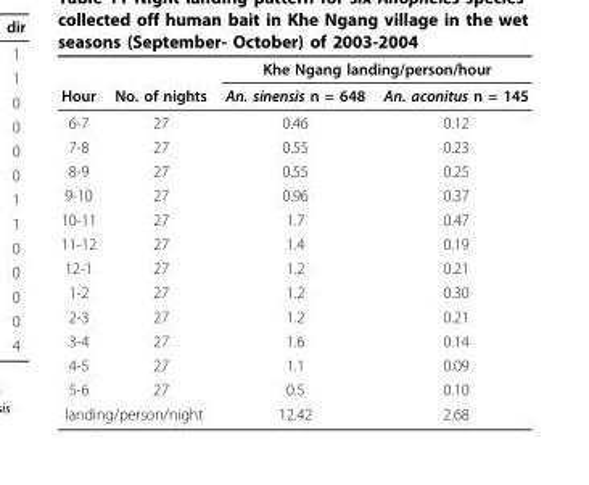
<table><thead><tr><td rowspan="2">Hour</td><td rowspan="2">No. of nights</td><td colspan="2">Khe Ngang landing/person/hour</td></tr><tr><td>An. sinensis n = 648</td><td>An. aconitus n = 145</td></tr></thead><tbody><tr><td>6-7</td><td>27</td><td>0.46</td><td>0.12</td></tr><tr><td>7-8</td><td>27</td><td>0.55</td><td>0.23</td></tr><tr><td>8-9</td><td>27</td><td>0.55</td><td>0.25</td></tr><tr><td>9-10</td><td>27</td><td>0.96</td><td>0.37</td></tr><tr><td>10-11</td><td>27</td><td>1.7</td><td>0.47</td></tr><tr><td>11-12</td><td>27</td><td>1.4</td><td>0.19</td></tr><tr><td>12-1</td><td>27</td><td>1.2</td><td>0.21</td></tr><tr><td>1-2</td><td>27</td><td>1.2</td><td>0.30</td></tr><tr><td>2-3</td><td>27</td><td>1.2</td><td>0.21</td></tr><tr><td>3-4</td><td>27</td><td>1.6</td><td>0.14</td></tr><tr><td>4-5</td><td>27</td><td>1.1</td><td>0.09</td></tr><tr><td>5-6</td><td>27</td><td>0.5</td><td>0.10</td></tr><tr><td colspan="2">landing/person/night</td><td>12.42</td><td>2.68</td></tr></tbody></table>